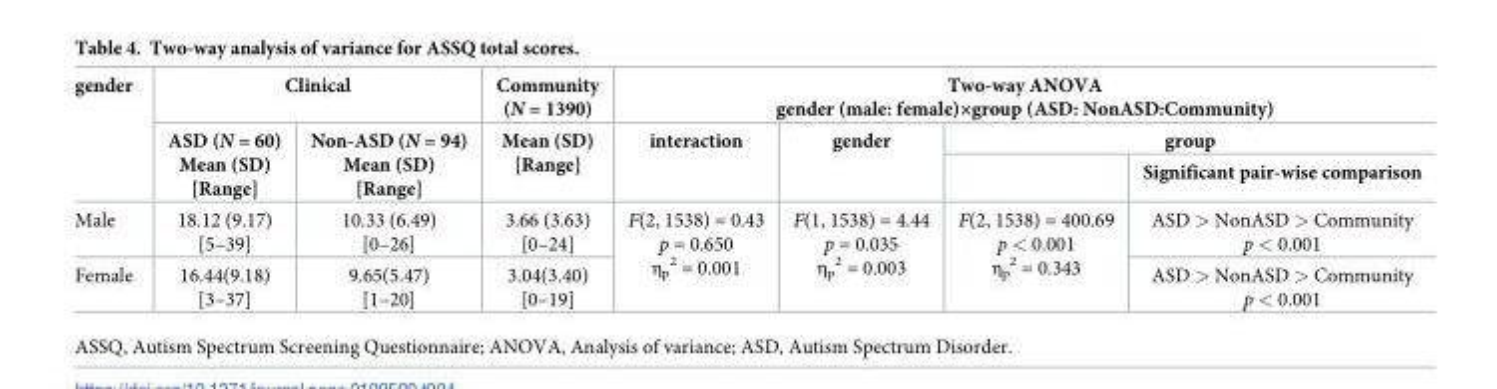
<table><thead><tr><td rowspan="3">gender</td><td colspan="2">Clinical</td><td rowspan="3">Community (N = 1390) Mean (SD) [Range]</td><td colspan="4">Two-way ANOVA gender (male: female)×group (ASD: NonASD:Community)</td></tr><tr><td rowspan="2">ASD (N = 60) Mean (SD) [Range]</td><td rowspan="2">Non-ASD (N = 94) Mean (SD) [Range]</td><td rowspan="2">interaction</td><td rowspan="2">gender</td><td colspan="2">group</td></tr><tr><td></td><td>Significant pair-wise comparison</td></tr></thead><tbody><tr><td>Male</td><td>18.12 (9.17) [5–39]</td><td>10.33 (6.49) [0–26]</td><td>3.66 (3.63) [0–24]</td><td rowspan="2">F(2, 1538) = 0.43 p = 0.650 η<sub>p</sub> <sup>2</sup> = 0.001</td><td rowspan="2">F(1, 1538) = 4.44 p = 0.035 η<sub>p</sub> <sup>2</sup> = 0.003</td><td rowspan="2">F(2, 1538) = 400.69 p &lt; 0.001 η<sub>p</sub> <sup>2</sup> = 0.343</td><td>ASD &gt; NonASD &gt; Community p &lt; 0.001</td></tr><tr><td>Female</td><td>16.44(9.18) [3–37]</td><td>9.65(5.47) [1–20]</td><td>3.04(3.40) [0–19]</td><td>ASD &gt; NonASD &gt; Community p &lt; 0.001</td></tr></tbody></table>